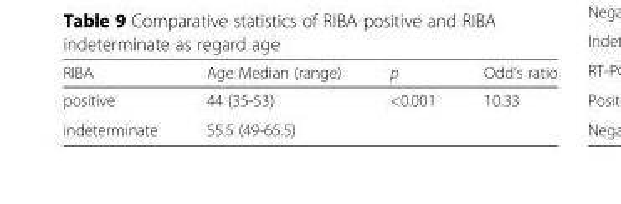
<table><thead><tr><td>RIBA</td><td>Age Median (range)</td><td>p</td><td>Odd’s ratio</td></tr></thead><tbody><tr><td>positive</td><td>44 (35-53)</td><td rowspan="2">&lt;0.001</td><td rowspan="2">10.33</td></tr><tr><td>indeterminate</td><td>55.5 (49-65.5)</td></tr></tbody></table>